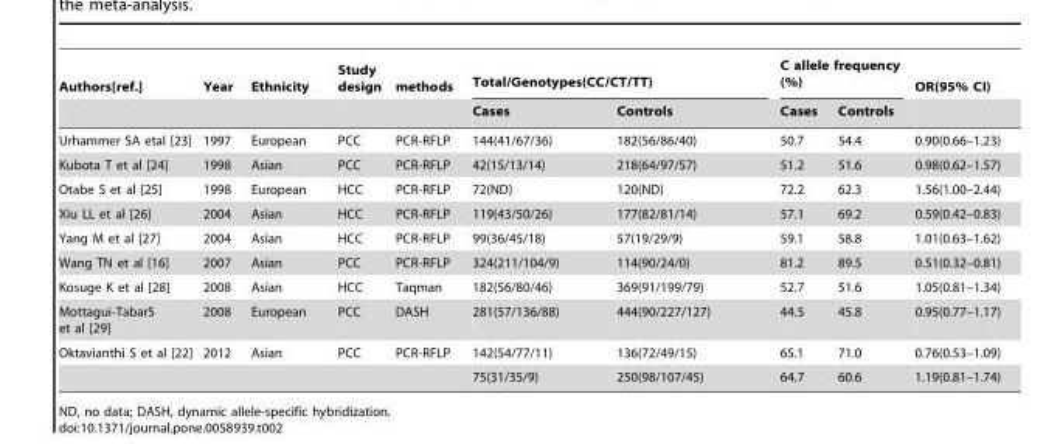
<table><thead><tr><td rowspan="2">Authors[ref.]</td><td rowspan="2">Year</td><td rowspan="2">Ethnicity</td><td rowspan="2">Study design</td><td rowspan="2">methods</td><td colspan="2">Total/Genotypes(CC/CT/TT)</td><td colspan="2">C allele frequency (%)</td><td rowspan="2">OR(95% CI)</td></tr><tr><td>Cases</td><td>Controls</td><td>Cases</td><td>Controls</td></tr></thead><tbody><tr><td>Urhammer SA etal [23]</td><td>1997</td><td>European</td><td>PCC</td><td>PCR-RFLP</td><td>144(41/67/36)</td><td>182(56/86/40)</td><td>50.7</td><td>54.4</td><td>0.90(0.66–1.23)</td></tr><tr><td>Kubota T et al [24]</td><td>1998</td><td>Asian</td><td>PCC</td><td>PCR-RFLP</td><td>42(15/13/14)</td><td>218(64/97/57)</td><td>51.2</td><td>51.6</td><td>0.98(0.62–1.57)</td></tr><tr><td>Otabe S et al [25]</td><td>1998</td><td>European</td><td>HCC</td><td>PCR-RFLP</td><td>72(ND)</td><td>120(ND)</td><td>72.2</td><td>62.3</td><td>1.56(1.00–2.44)</td></tr><tr><td>Xiu LL et al [26]</td><td>2004</td><td>Asian</td><td>HCC</td><td>PCR-RFLP</td><td>119(43/50/26)</td><td>177(82/81/14)</td><td>57.1</td><td>69.2</td><td>0.59(0.42–0.83)</td></tr><tr><td>Yang M et al [27]</td><td>2004</td><td>Asian</td><td>HCC</td><td>PCR-RFLP</td><td>99(36/45/18)</td><td>57(19/29/9)</td><td>59.1</td><td>58.8</td><td>1.01(0.63–1.62)</td></tr><tr><td>Wang TN et al [16]</td><td>2007</td><td>Asian</td><td>PCC</td><td>PCR-RFLP</td><td>324(211/104/9)</td><td>114(90/24/0)</td><td>81.2</td><td>89.5</td><td>0.51(0.32–0.81)</td></tr><tr><td>Kosuge K et al [28]</td><td>2008</td><td>Asian</td><td>HCC</td><td>Taqman</td><td>182(56/80/46)</td><td>369(91/199/79)</td><td>52.7</td><td>51.6</td><td>1.05(0.81–1.34)</td></tr><tr><td>Mottagui-TabarS et al [29]</td><td>2008</td><td>European</td><td>PCC</td><td>DASH</td><td>281(57/136/88)</td><td>444(90/227/127)</td><td>44.5</td><td>45.8</td><td>0.95(0.77–1.17)</td></tr><tr><td rowspan="2">Oktavianthi S et al [22]</td><td>2012</td><td>Asian</td><td>PCC</td><td>PCR-RFLP</td><td>142(54/77/11)</td><td>136(72/49/15)</td><td>65.1</td><td>71.0</td><td>0.76(0.53–1.09)</td></tr><tr><td></td><td></td><td></td><td></td><td>75(31/35/9)</td><td>250(98/107/45)</td><td>64.7</td><td>60.6</td><td>1.19(0.81–1.74)</td></tr></tbody></table>